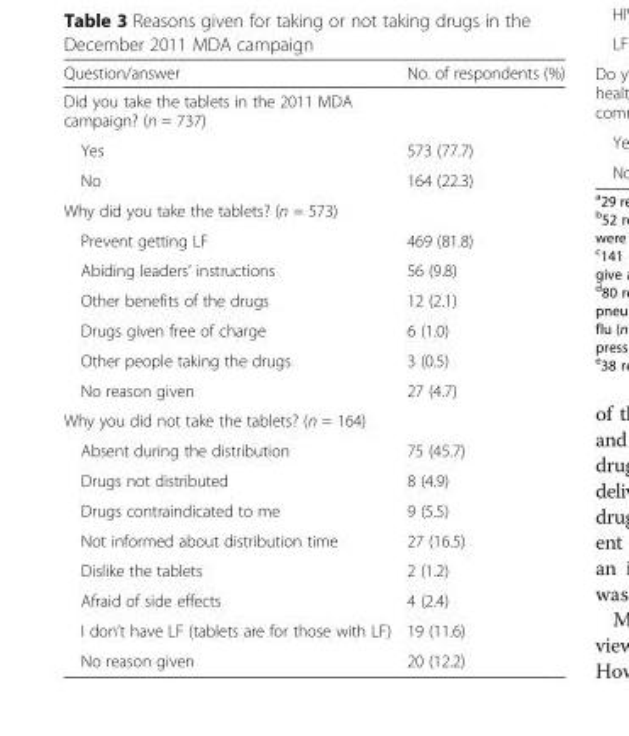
<table><thead><tr><td>Question/answer</td><td>No. of respondents (%)</td></tr></thead><tbody><tr><td colspan="2">Did you take the tablets in the 2011 MDA campaign? (n = 737)</td></tr><tr><td>Yes</td><td>573 (77.7)</td></tr><tr><td>No</td><td>164 (22.3)</td></tr><tr><td colspan="2">Why did you take the tablets? (n = 573)</td></tr><tr><td>Prevent getting LF</td><td>469 (81.8)</td></tr><tr><td>Abiding leaders’ instructions</td><td>56 (9.8)</td></tr><tr><td>Other benefits of the drugs</td><td>12 (2.1)</td></tr><tr><td>Drugs given free of charge</td><td>6 (1.0)</td></tr><tr><td>Other people taking the drugs</td><td>3 (0.5)</td></tr><tr><td>No reason given</td><td>27 (4.7)</td></tr><tr><td colspan="2">Why you did not take the tablets? (n = 164)</td></tr><tr><td>Absent during the distribution</td><td>75 (45.7)</td></tr><tr><td>Drugs not distributed</td><td>8 (4.9)</td></tr><tr><td>Drugs contraindicated to me</td><td>9 (5.5)</td></tr><tr><td>Not informed about distribution time</td><td>27 (16.5)</td></tr><tr><td>Dislike the tablets</td><td>2 (1.2)</td></tr><tr><td>Afraid of side effects</td><td>4 (2.4)</td></tr><tr><td>I don’t have LF (tablets are for those with LF)</td><td>19 (11.6)</td></tr><tr><td>No reason given</td><td>20 (12.2)</td></tr></tbody></table>